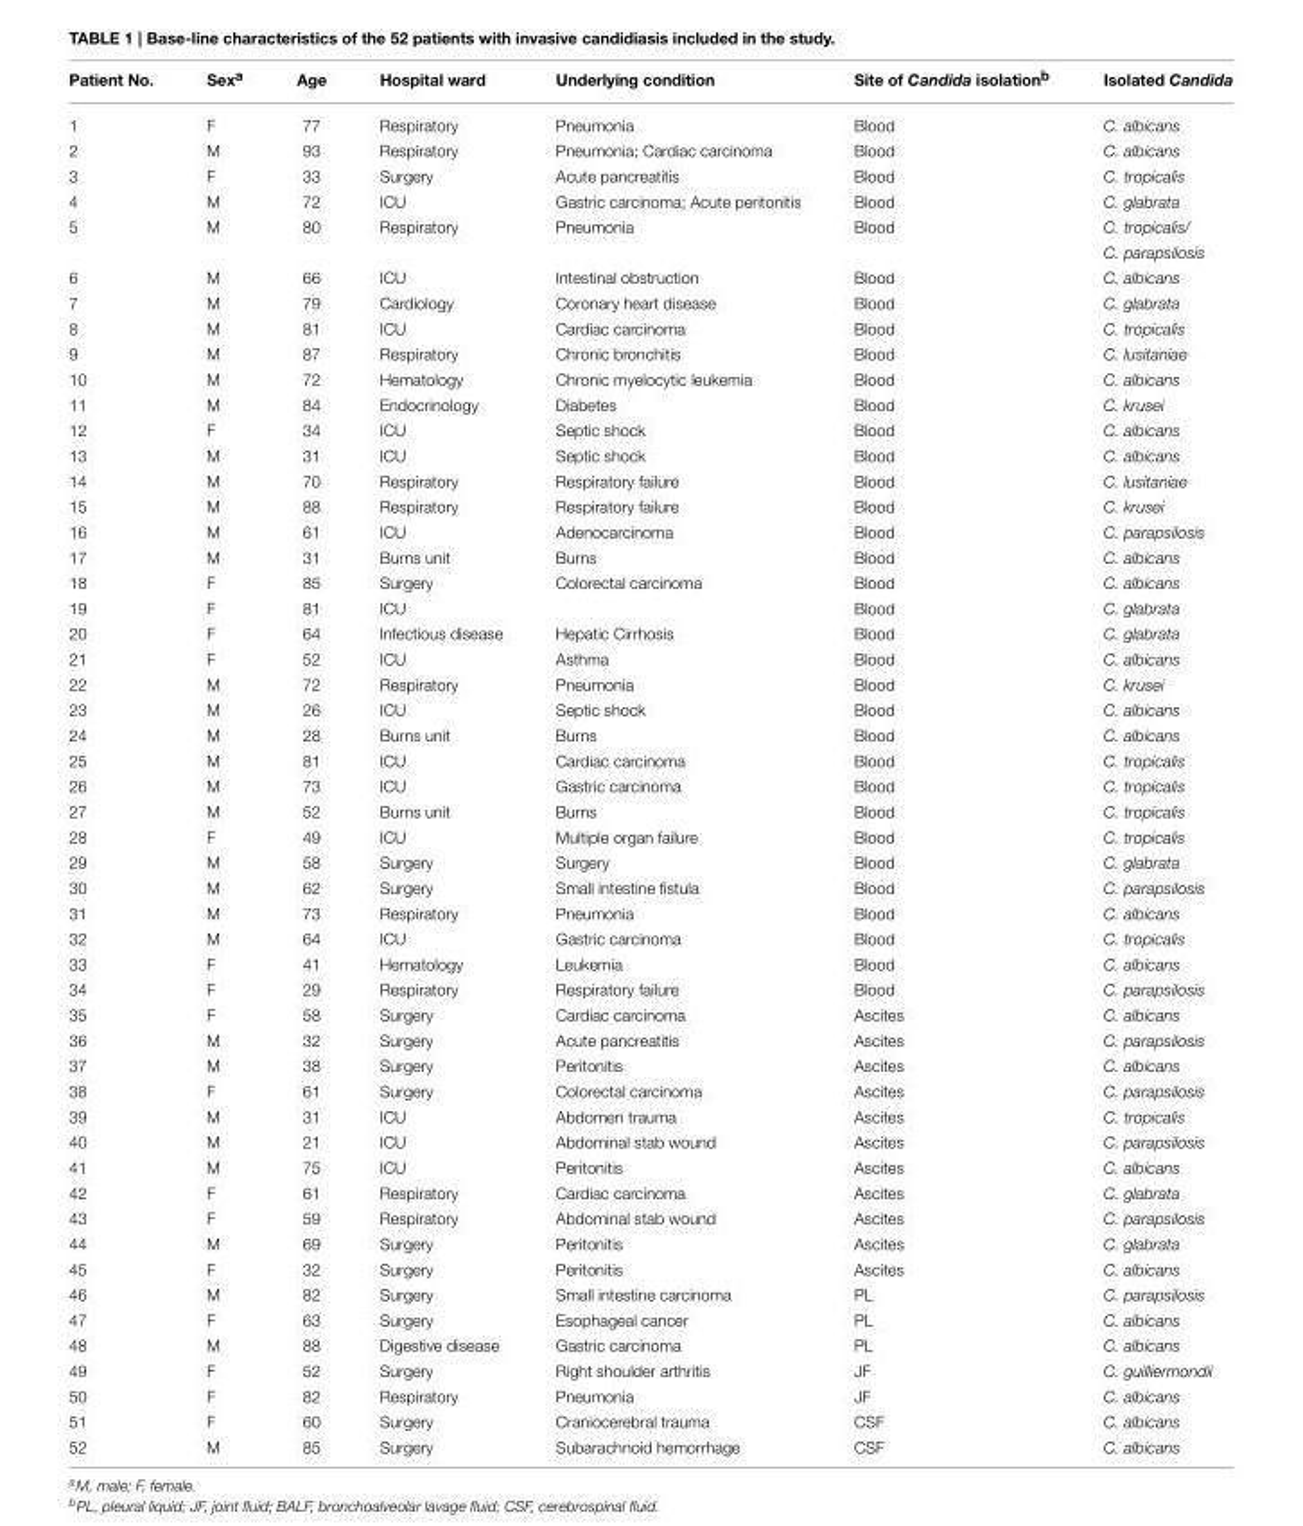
<table><thead><tr><td>Patient No.</td><td>Sex<sup>a</sup></td><td>Age</td><td>Hospital ward</td><td>Underlying condition</td><td>Site of Candida isolation<sup>b</sup></td><td>Isolated Candida</td></tr></thead><tbody><tr><td>1</td><td>F</td><td>77</td><td>Respiratory</td><td>Pneumonia</td><td>Blood</td><td>C. albicans</td></tr><tr><td>2</td><td>M</td><td>93</td><td>Respiratory</td><td>Pneumonia; Cardiac carcinoma</td><td>Blood</td><td>C. albicans</td></tr><tr><td>3</td><td>F</td><td>33</td><td>Surgery</td><td>Acute pancreatitis</td><td>Blood</td><td>C. tropicalis</td></tr><tr><td>4</td><td>M</td><td>72</td><td>ICU</td><td>Gastric carcinoma; Acute peritonitis</td><td>Blood</td><td>C. glabrata</td></tr><tr><td rowspan="2">5</td><td>M</td><td>80</td><td>Respiratory</td><td>Pneumonia</td><td>Blood</td><td>C. tropicalis/</td></tr><tr><td></td><td></td><td></td><td></td><td></td><td>C. parapsilosis</td></tr><tr><td>6</td><td>M</td><td>66</td><td>ICU</td><td>Intestinal obstruction</td><td>Blood</td><td>C. albicans</td></tr><tr><td>7</td><td>M</td><td>79</td><td>Cardiology</td><td>Coronary heart disease</td><td>Blood</td><td>C. glabrata</td></tr><tr><td>8</td><td>M</td><td>81</td><td>ICU</td><td>Cardiac carcinoma</td><td>Blood</td><td>C. tropicalis</td></tr><tr><td>9</td><td>M</td><td>87</td><td>Respiratory</td><td>Chronic bronchitis</td><td>Blood</td><td>C. lusitaniae</td></tr><tr><td>10</td><td>M</td><td>72</td><td>Hematology</td><td>Chronic myelocytic leukemia</td><td>Blood</td><td>C. albicans</td></tr><tr><td>11</td><td>M</td><td>84</td><td>Endocrinology</td><td>Diabetes</td><td>Blood</td><td>C. krusei</td></tr><tr><td>12</td><td>F</td><td>34</td><td>ICU</td><td>Septic shock</td><td>Blood</td><td>C. albicans</td></tr><tr><td>13</td><td>M</td><td>31</td><td>ICU</td><td>Septic shock</td><td>Blood</td><td>C. albicans</td></tr><tr><td>14</td><td>M</td><td>70</td><td>Respiratory</td><td>Respiratory failure</td><td>Blood</td><td>C. lusitaniae</td></tr><tr><td>15</td><td>M</td><td>88</td><td>Respiratory</td><td>Respiratory failure</td><td>Blood</td><td>C. krusei</td></tr><tr><td>16</td><td>M</td><td>61</td><td>ICU</td><td>Adenocarcinoma</td><td>Blood</td><td>C. parapsilosis</td></tr><tr><td>17</td><td>M</td><td>31</td><td>Burns unit</td><td>Burns</td><td>Blood</td><td>C. albicans</td></tr><tr><td>18</td><td>F</td><td>85</td><td>Surgery</td><td>Colorectal carcinoma</td><td>Blood</td><td>C. albicans</td></tr><tr><td>19</td><td>F</td><td>81</td><td>ICU</td><td></td><td>Blood</td><td>C. glabrata</td></tr><tr><td>20</td><td>F</td><td>64</td><td>Infectious disease</td><td>Hepatic Cirrhosis</td><td>Blood</td><td>C. glabrata</td></tr><tr><td>21</td><td>F</td><td>52</td><td>ICU</td><td>Asthma</td><td>Blood</td><td>C. albicans</td></tr><tr><td>22</td><td>M</td><td>72</td><td>Respiratory</td><td>Pneumonia</td><td>Blood</td><td>C. krusei</td></tr><tr><td>23</td><td>M</td><td>26</td><td>ICU</td><td>Septic shock</td><td>Blood</td><td>C. albicans</td></tr><tr><td>24</td><td>M</td><td>28</td><td>Burns unit</td><td>Burns</td><td>Blood</td><td>C. albicans</td></tr><tr><td>25</td><td>M</td><td>81</td><td>ICU</td><td>Cardiac carcinoma</td><td>Blood</td><td>C. tropicalis</td></tr><tr><td>26</td><td>M</td><td>73</td><td>ICU</td><td>Gastric carcinoma</td><td>Blood</td><td>C. tropicalis</td></tr><tr><td>27</td><td>M</td><td>52</td><td>Burns unit</td><td>Burns</td><td>Blood</td><td>C. tropicalis</td></tr><tr><td>28</td><td>F</td><td>49</td><td>ICU</td><td>Multiple organ failure</td><td>Blood</td><td>C. tropicalis</td></tr><tr><td>29</td><td>M</td><td>58</td><td>Surgery</td><td>Surgery</td><td>Blood</td><td>C. glabrata</td></tr><tr><td>30</td><td>M</td><td>62</td><td>Surgery</td><td>Small intestine fistula</td><td>Blood</td><td>C. parapsilosis</td></tr><tr><td>31</td><td>M</td><td>73</td><td>Respiratory</td><td>Pneumonia</td><td>Blood</td><td>C. albicans</td></tr><tr><td>32</td><td>M</td><td>64</td><td>ICU</td><td>Gastric carcinoma</td><td>Blood</td><td>C. tropicalis</td></tr><tr><td>33</td><td>F</td><td>41</td><td>Hematology</td><td>Leukemia</td><td>Blood</td><td>C. albicans</td></tr><tr><td>34</td><td>F</td><td>29</td><td>Respiratory</td><td>Respiratory failure</td><td>Blood</td><td>C. parapsilosis</td></tr><tr><td>35</td><td>F</td><td>58</td><td>Surgery</td><td>Cardiac carcinoma</td><td>Ascites</td><td>C. albicans</td></tr><tr><td>36</td><td>M</td><td>32</td><td>Surgery</td><td>Acute pancreatitis</td><td>Ascites</td><td>C. parapsilosis</td></tr><tr><td>37</td><td>M</td><td>38</td><td>Surgery</td><td>Peritonitis</td><td>Ascites</td><td>C. albicans</td></tr><tr><td>38</td><td>F</td><td>61</td><td>Surgery</td><td>Colorectal carcinoma</td><td>Ascites</td><td>C. parapsilosis</td></tr><tr><td>39</td><td>M</td><td>31</td><td>ICU</td><td>Abdomen trauma</td><td>Ascites</td><td>C. tropicalis</td></tr><tr><td>40</td><td>M</td><td>21</td><td>ICU</td><td>Abdominal stab wound</td><td>Ascites</td><td>C. parapsilosis</td></tr><tr><td>41</td><td>M</td><td>75</td><td>ICU</td><td>Peritonitis</td><td>Ascites</td><td>C. albicans</td></tr><tr><td>42</td><td>F</td><td>61</td><td>Respiratory</td><td>Cardiac carcinoma</td><td>Ascites</td><td>C. glabrata</td></tr><tr><td>43</td><td>F</td><td>59</td><td>Respiratory</td><td>Abdominal stab wound</td><td>Ascites</td><td>C. parapsilosis</td></tr><tr><td>44</td><td>M</td><td>69</td><td>Surgery</td><td>Peritonitis</td><td>Ascites</td><td>C. glabrata</td></tr><tr><td>45</td><td>F</td><td>32</td><td>Surgery</td><td>Peritonitis</td><td>Ascites</td><td>C. albicans</td></tr><tr><td>46</td><td>M</td><td>82</td><td>Surgery</td><td>Small intestine carcinoma</td><td>PL</td><td>C. parapsilosis</td></tr><tr><td>47</td><td>F</td><td>63</td><td>Surgery</td><td>Esophageal cancer</td><td>PL</td><td>C. albicans</td></tr><tr><td>48</td><td>M</td><td>88</td><td>Digestive disease</td><td>Gastric carcinoma</td><td>PL</td><td>C. albicans</td></tr><tr><td>49</td><td>F</td><td>52</td><td>Surgery</td><td>Right shoulder arthritis</td><td>JF</td><td>C. guilliermondii</td></tr><tr><td>50</td><td>F</td><td>82</td><td>Respiratory</td><td>Pneumonia</td><td>JF</td><td>C. albicans</td></tr><tr><td>51</td><td>F</td><td>60</td><td>Surgery</td><td>Craniocerebral trauma</td><td>CSF</td><td>C. albicans</td></tr><tr><td>52</td><td>M</td><td>85</td><td>Surgery</td><td>Subarachnoid hemorrhage</td><td>CSF</td><td>C. albicans</td></tr></tbody></table>